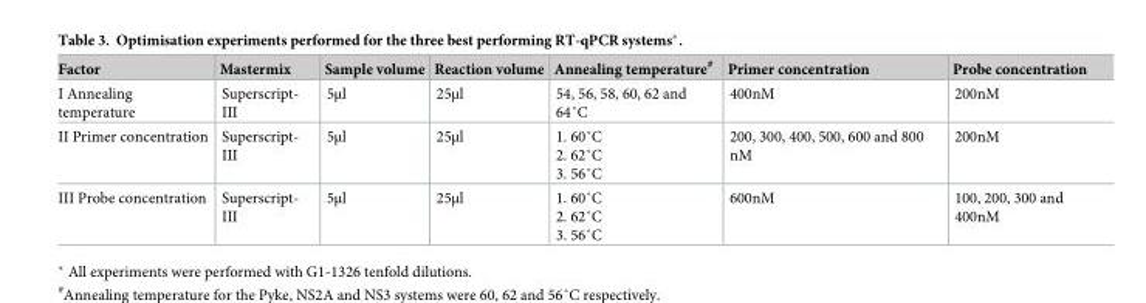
<table><thead><tr><td>Factor</td><td>Mastermix</td><td>Sample volume</td><td>Reaction volume</td><td>Annealing temperature<sup>#</sup></td><td>Primer concentration</td><td>Probe concentration</td></tr></thead><tbody><tr><td>I Annealing temperature</td><td>Superscript- III</td><td>5μl</td><td>25μl</td><td>54, 56, 58, 60, 62 and 64˚C</td><td>400nM</td><td>200nM</td></tr><tr><td>II Primer concentration</td><td>Superscript- III</td><td>5μl</td><td>25μl</td><td>1. 60˚C 2. 62˚C 3. 56˚C</td><td>200, 300, 400, 500, 600 and 800 nM</td><td>200nM</td></tr><tr><td>III Probe concentration</td><td>Superscript- III</td><td>5μl</td><td>25μl</td><td>1. 60˚C 2. 62˚C 3. 56˚C</td><td>600nM</td><td>100, 200, 300 and 400nM</td></tr></tbody></table>